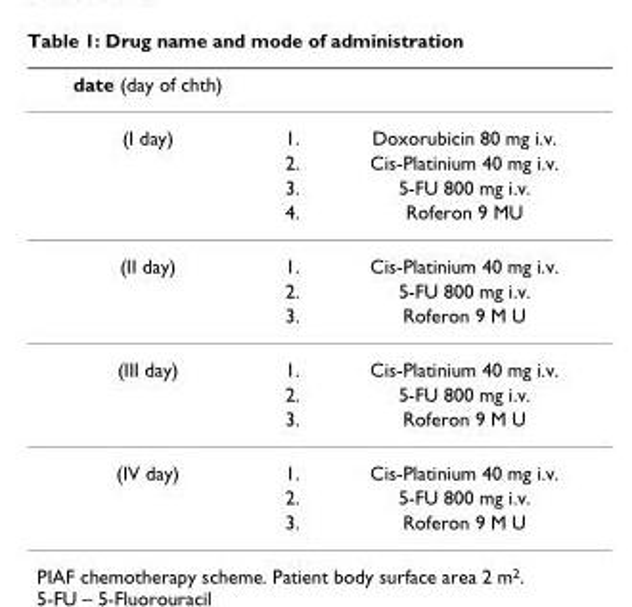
<table><thead><tr><td>date (day of chth)</td><td></td><td></td></tr></thead><tbody><tr><td rowspan="4">(I day)</td><td>1.</td><td>Doxorubicin 80 mg i.v.</td></tr><tr><td>2.</td><td>Cis-Platinium 40 mg i.v.</td></tr><tr><td>3.</td><td>5-FU 800 mg i.v.</td></tr><tr><td>4.</td><td>Roferon 9 MU</td></tr><tr><td rowspan="3">(II day)</td><td>1.</td><td>Cis-Platinium 40 mg i.v.</td></tr><tr><td>2.</td><td>5-FU 800 mg i.v.</td></tr><tr><td>3.</td><td>Roferon 9 M U</td></tr><tr><td rowspan="3">(III day)</td><td>1.</td><td>Cis-Platinium 40 mg i.v.</td></tr><tr><td>2.</td><td>5-FU 800 mg i.v.</td></tr><tr><td>3.</td><td>Roferon 9 M U</td></tr><tr><td rowspan="3">(IV day)</td><td>1.</td><td>Cis-Platinium 40 mg i.v.</td></tr><tr><td>2.</td><td>5-FU 800 mg i.v.</td></tr><tr><td>3.</td><td>Roferon 9 M U</td></tr></tbody></table>